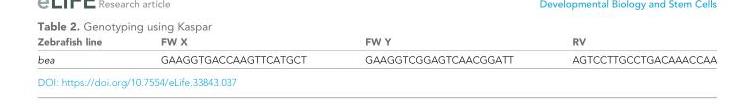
<table><thead><tr><td>Zebrafish line</td><td>FW X</td><td>FW Y</td><td>RV</td></tr></thead><tbody><tr><td>bea</td><td>GAAGGTGACCAAGTTCATGCT</td><td>GAAGGTCGGAGTCAACGGATT</td><td>AGTCCTTGCCTGACAAACCAA</td></tr></tbody></table>